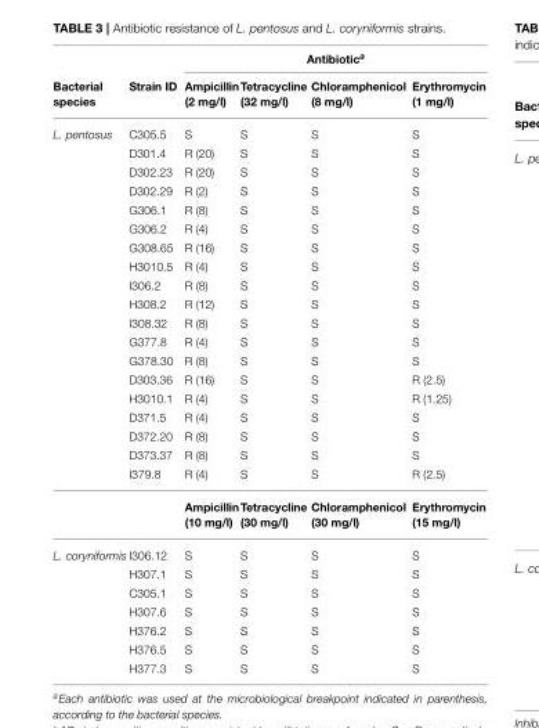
<table><thead><tr><td rowspan="2">Bacterial species</td><td rowspan="2">Strain ID</td><td colspan="4">Antibiotic<sup>a</sup></td></tr><tr><td>Ampicillin (2 mg/l)</td><td>Tetracycline (32 mg/l)</td><td>Chloramphenicol (8 mg/l)</td><td>Erythromycin (1 mg/l)</td></tr></thead><tbody><tr><td rowspan="20">L. pentosus</td><td>C305.5</td><td>S</td><td>S</td><td>S</td><td>S</td></tr><tr><td>D301.4</td><td>R (20)</td><td>S</td><td>S</td><td>S</td></tr><tr><td>D302.23</td><td>R (20)</td><td>S</td><td>S</td><td>S</td></tr><tr><td>D302.29</td><td>R (2)</td><td>S</td><td>S</td><td>S</td></tr><tr><td>G306.1</td><td>R (8)</td><td>S</td><td>S</td><td>S</td></tr><tr><td>G306.2</td><td>R (4)</td><td>S</td><td>S</td><td>S</td></tr><tr><td>G308.65</td><td>R (16)</td><td>S</td><td>S</td><td>S</td></tr><tr><td>H3010.5</td><td>R (4)</td><td>S</td><td>S</td><td>S</td></tr><tr><td>I306.2</td><td>R (8)</td><td>S</td><td>S</td><td>S</td></tr><tr><td>H308.2</td><td>R (12)</td><td>S</td><td>S</td><td>S</td></tr><tr><td>I308.32</td><td>R (8)</td><td>S</td><td>S</td><td>S</td></tr><tr><td>G377.8</td><td>R (4)</td><td>S</td><td>S</td><td>S</td></tr><tr><td>G378.30</td><td>R (8)</td><td>S</td><td>S</td><td>S</td></tr><tr><td>D303.36</td><td>R (16)</td><td>S</td><td>S</td><td>R (2.5)</td></tr><tr><td>H3010.1</td><td>R (4)</td><td>S</td><td>S</td><td>R (1.25)</td></tr><tr><td>D371.5</td><td>R (4)</td><td>S</td><td>S</td><td>S</td></tr><tr><td>D372.20</td><td>R (8)</td><td>S</td><td>S</td><td>S</td></tr><tr><td>D373.37</td><td>R (8)</td><td>S</td><td>S</td><td>S</td></tr><tr><td>I379.8</td><td>R (4)</td><td>S</td><td>S</td><td>R (2.5)</td></tr><tr><td></td><td>Ampicillin (10 mg/l)</td><td>Tetracycline (30 mg/l)</td><td>Chloramphenicol (30 mg/l)</td><td>Erythromycin (15 mg/l)</td></tr><tr><td rowspan="7">L. coryniformis</td><td>I306.12</td><td>S</td><td>S</td><td>S</td><td>S</td></tr><tr><td>H307.1</td><td>S</td><td>S</td><td>S</td><td>S</td></tr><tr><td>C305.1</td><td>S</td><td>S</td><td>S</td><td>S</td></tr><tr><td>H307.6</td><td>S</td><td>S</td><td>S</td><td>S</td></tr><tr><td>H376.2</td><td>S</td><td>S</td><td>S</td><td>S</td></tr><tr><td>H376.5</td><td>S</td><td>S</td><td>S</td><td>S</td></tr><tr><td>H377.3</td><td>S</td><td>S</td><td>S</td><td>S</td></tr></tbody></table>